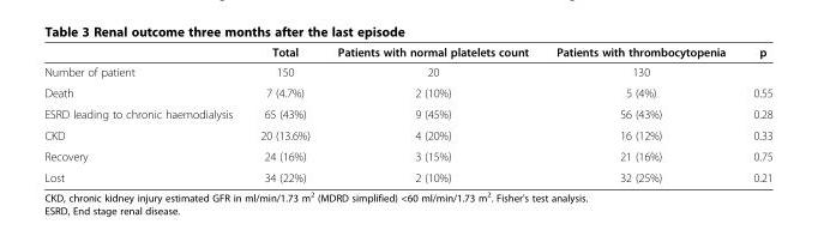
<table><thead><tr><td></td><td>Total</td><td>Patients with normal platelets count</td><td>Patients with thrombocytopenia</td><td>p</td></tr></thead><tbody><tr><td>Number of patient</td><td>150</td><td>20</td><td>130</td><td></td></tr><tr><td>Death</td><td>7 (4.7%)</td><td>2 (10%)</td><td>5 (4%)</td><td>0.55</td></tr><tr><td>ESRD leading to chronic haemodialysis</td><td>65 (43%)</td><td>9 (45%)</td><td>56 (43%)</td><td>0.28</td></tr><tr><td>CKD</td><td>20 (13.6%)</td><td>4 (20%)</td><td>16 (12%)</td><td>0.33</td></tr><tr><td>Recovery</td><td>24 (16%)</td><td>3 (15%)</td><td>21 (16%)</td><td>0.75</td></tr><tr><td>Lost</td><td>34 (22%)</td><td>2 (10%)</td><td>32 (25%)</td><td>0.21</td></tr></tbody></table>